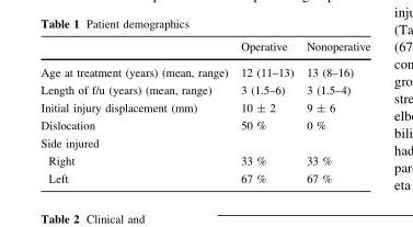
<table><thead><tr><td></td><td>Operative</td><td>Nonoperative</td></tr></thead><tbody><tr><td>Age at treatment (years) (mean, range)</td><td>12 (11–13)</td><td>13 (8–16)</td></tr><tr><td>Length of f/u (years) (mean, range)</td><td>3 (1.5–6)</td><td>3 (1.5–4)</td></tr><tr><td>Initial injury displacement (mm)</td><td>10 ± 2</td><td>9 ± 6</td></tr><tr><td>Dislocation</td><td>50 %</td><td>0 %</td></tr><tr><td colspan="3">Side injured</td></tr><tr><td>Right</td><td>33 %</td><td>33 %</td></tr><tr><td>Left</td><td>67 %</td><td>67 %</td></tr></tbody></table>